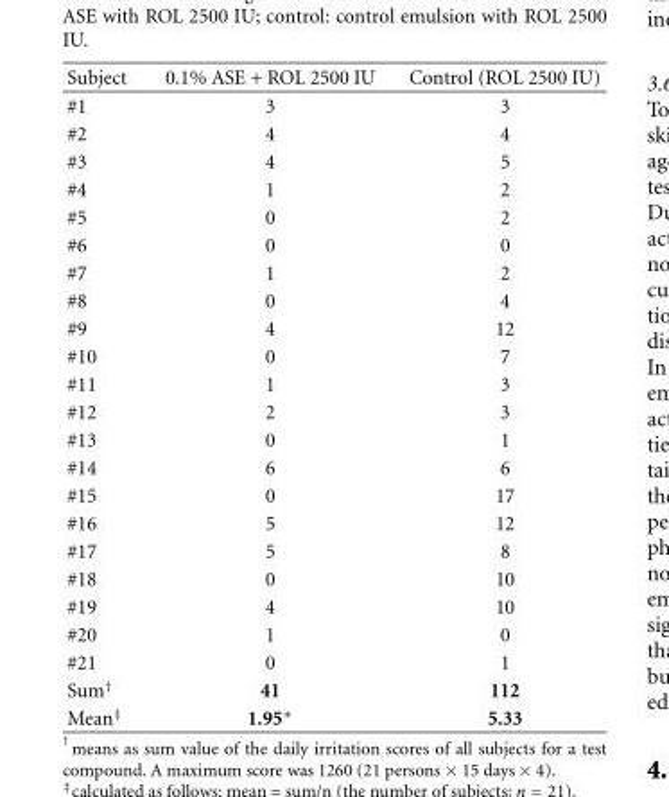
<table><thead><tr><td>Subject</td><td>0.1% ASE + ROL 2500 IU</td><td>Control (ROL 2500 IU)</td></tr></thead><tbody><tr><td>#1</td><td>3</td><td>3</td></tr><tr><td>#2</td><td>4</td><td>4</td></tr><tr><td>#3</td><td>4</td><td>5</td></tr><tr><td>#4</td><td>1</td><td>2</td></tr><tr><td>#5</td><td>0</td><td>2</td></tr><tr><td>#6</td><td>0</td><td>0</td></tr><tr><td>#7</td><td>1</td><td>2</td></tr><tr><td>#8</td><td>0</td><td>4</td></tr><tr><td>#9</td><td>4</td><td>12</td></tr><tr><td>#10</td><td>0</td><td>7</td></tr><tr><td>#11</td><td>1</td><td>3</td></tr><tr><td>#12</td><td>2</td><td>3</td></tr><tr><td>#13</td><td>0</td><td>1</td></tr><tr><td>#14</td><td>6</td><td>6</td></tr><tr><td>#15</td><td>0</td><td>17</td></tr><tr><td>#16</td><td>5</td><td>12</td></tr><tr><td>#17</td><td>5</td><td>8</td></tr><tr><td>#18</td><td>0</td><td>10</td></tr><tr><td>#19</td><td>4</td><td>10</td></tr><tr><td>#20</td><td>1</td><td>0</td></tr><tr><td>#21</td><td>0</td><td>1</td></tr><tr><td>Sum<sup>†</sup></td><td>41</td><td>112</td></tr><tr><td>Mean<sup>‡</sup></td><td>1.95∗</td><td>5.33</td></tr></tbody></table>